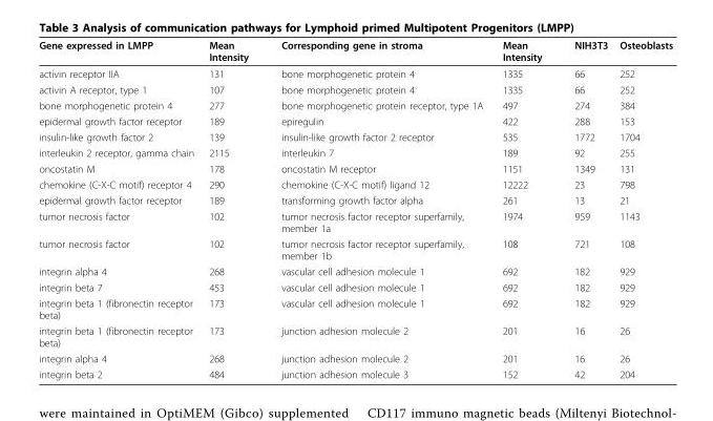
<table><thead><tr><td>Gene expressed in LMPP</td><td>Mean Intensity</td><td>Corresponding gene in stroma</td><td>Mean Intensity</td><td>NIH3T3</td><td>Osteoblasts</td></tr></thead><tbody><tr><td>activin receptor IIA</td><td>131</td><td>bone morphogenetic protein 4</td><td>1335</td><td>66</td><td>252</td></tr><tr><td>activin A receptor, type 1</td><td>107</td><td>bone morphogenetic protein 4</td><td>1335</td><td>66</td><td>252</td></tr><tr><td>bone morphogenetic protein 4</td><td>277</td><td>bone morphogenetic protein receptor, type 1A</td><td>497</td><td>274</td><td>384</td></tr><tr><td>epidermal growth factor receptor</td><td>189</td><td>epiregulin</td><td>422</td><td>288</td><td>153</td></tr><tr><td>insulin-like growth factor 2</td><td>139</td><td>insulin-like growth factor 2 receptor</td><td>535</td><td>1772</td><td>1704</td></tr><tr><td>interleukin 2 receptor, gamma chain</td><td>2115</td><td>interleukin 7</td><td>189</td><td>92</td><td>255</td></tr><tr><td>oncostatin M</td><td>178</td><td>oncostatin M receptor</td><td>1151</td><td>1349</td><td>131</td></tr><tr><td>chemokine (C-X-C motif) receptor 4</td><td>290</td><td>chemokine (C-X-C motif) ligand 12</td><td>12222</td><td>23</td><td>798</td></tr><tr><td>epidermal growth factor receptor</td><td>189</td><td>transforming growth factor alpha</td><td>261</td><td>13</td><td>21</td></tr><tr><td>tumor necrosis factor</td><td>102</td><td>tumor necrosis factor receptor superfamily, member 1a</td><td>1974</td><td>959</td><td>1143</td></tr><tr><td>tumor necrosis factor</td><td>102</td><td>tumor necrosis factor receptor superfamily, member 1b</td><td>108</td><td>721</td><td>108</td></tr><tr><td>integrin alpha 4</td><td>268</td><td>vascular cell adhesion molecule 1</td><td>692</td><td>182</td><td>929</td></tr><tr><td>integrin beta 7</td><td>453</td><td>vascular cell adhesion molecule 1</td><td>692</td><td>182</td><td>929</td></tr><tr><td>integrin beta 1 (fibronectin receptor beta)</td><td>173</td><td>vascular cell adhesion molecule 1</td><td>692</td><td>182</td><td>929</td></tr><tr><td>integrin beta 1 (fibronectin receptor beta)</td><td>173</td><td>junction adhesion molecule 2</td><td>201</td><td>16</td><td>26</td></tr><tr><td>integrin alpha 4</td><td>268</td><td>junction adhesion molecule 2</td><td>201</td><td>16</td><td>26</td></tr><tr><td>integrin beta 2</td><td>484</td><td>junction adhesion molecule 3</td><td>152</td><td>42</td><td>204</td></tr></tbody></table>